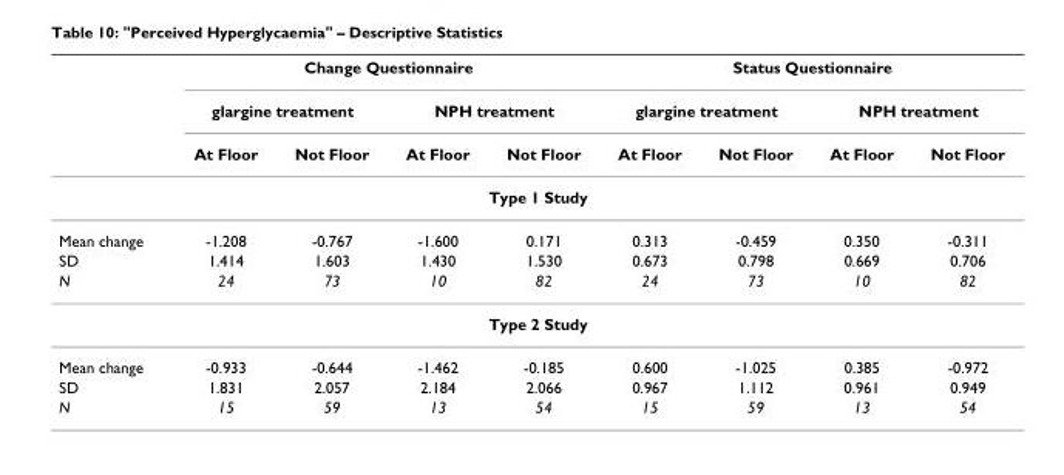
<table><thead><tr><td rowspan="3"></td><td colspan="4">Change Questionnaire</td><td colspan="4">Status Questionnaire</td></tr><tr><td colspan="2">glargine treatment</td><td colspan="2">NPH treatment</td><td colspan="2">glargine treatment</td><td colspan="2">NPH treatment</td></tr><tr><td>At Floor</td><td>Not Floor</td><td>At Floor</td><td>Not Floor</td><td>At Floor</td><td>Not Floor</td><td>At Floor</td><td>Not Floor</td></tr></thead><tbody><tr><td colspan="9">Type 1 Study</td></tr><tr><td>Mean change</td><td>-1.208</td><td>-0.767</td><td>-1.600</td><td>0.171</td><td>0.313</td><td>-0.459</td><td>0.350</td><td>-0.311</td></tr><tr><td>SD</td><td>1.414</td><td>1.603</td><td>1.430</td><td>1.530</td><td>0.673</td><td>0.798</td><td>0.669</td><td>0.706</td></tr><tr><td>N</td><td>24</td><td>73</td><td>10</td><td>82</td><td>24</td><td>73</td><td>10</td><td>82</td></tr><tr><td colspan="9">Type 2 Study</td></tr><tr><td>Mean change</td><td>-0.933</td><td>-0.644</td><td>-1.462</td><td>-0.185</td><td>0.600</td><td>-1.025</td><td>0.385</td><td>-0.972</td></tr><tr><td>SD</td><td>1.831</td><td>2.057</td><td>2.184</td><td>2.066</td><td>0.967</td><td>1.112</td><td>0.961</td><td>0.949</td></tr><tr><td>N</td><td>15</td><td>59</td><td>13</td><td>54</td><td>15</td><td>59</td><td>13</td><td>54</td></tr></tbody></table>